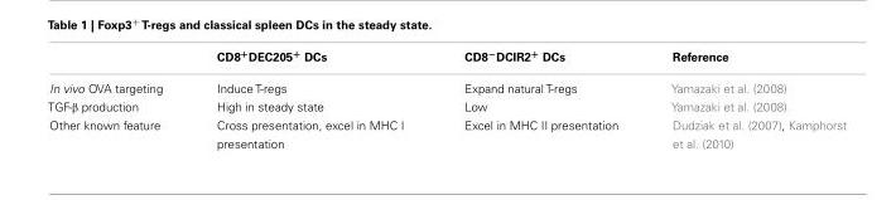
<table><thead><tr><td></td><td>CD8<sup>+</sup>DEC205<sup>+</sup> DCs</td><td>CD8<sup>−</sup>DCIR2<sup>+</sup> DCs</td><td>Reference</td></tr></thead><tbody><tr><td>In vivo OVA targeting</td><td>Induce T-regs</td><td>Expand natural T-regs</td><td>Yamazaki et al. (2008)</td></tr><tr><td>TGF-β production</td><td>High in steady state</td><td>Low</td><td>Yamazaki et al. (2008)</td></tr><tr><td>Other known feature</td><td>Cross presentation, excel in MHC I presentation</td><td>Excel in MHC II presentation</td><td>Dudziak et al. (2007), Kamphorst et al. (2010)</td></tr></tbody></table>